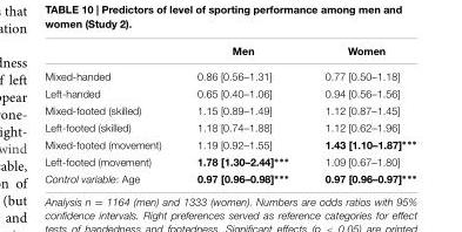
<table><thead><tr><td></td><td>Men</td><td>Women</td></tr></thead><tbody><tr><td>Mixed-handed</td><td>0.86 [0.56–1.31]</td><td>0.77 [0.50–1.18]</td></tr><tr><td>Left-handed</td><td>0.65 [0.40–1.06]</td><td>0.94 [0.56–1.56]</td></tr><tr><td>Mixed-footed (skilled)</td><td>1.15 [0.89–1.49]</td><td>1.12 [0.87–1.45]</td></tr><tr><td>Left-footed (skilled)</td><td>1.18 [0.74–1.88]</td><td>1.12 [0.62–1.96]</td></tr><tr><td>Mixed-footed (movement)</td><td>1.19 [0.92–1.55]</td><td>1.43 [1.10–1.87]∗∗∗</td></tr><tr><td>Left-footed (movement)</td><td>1.78 [1.30–2.44]∗∗∗</td><td>1.09 [0.67–1.80]</td></tr><tr><td>Control variable: Age</td><td>0.97 [0.96–0.98]∗∗∗</td><td>0.97 [0.96–0.97]∗∗∗</td></tr></tbody></table>